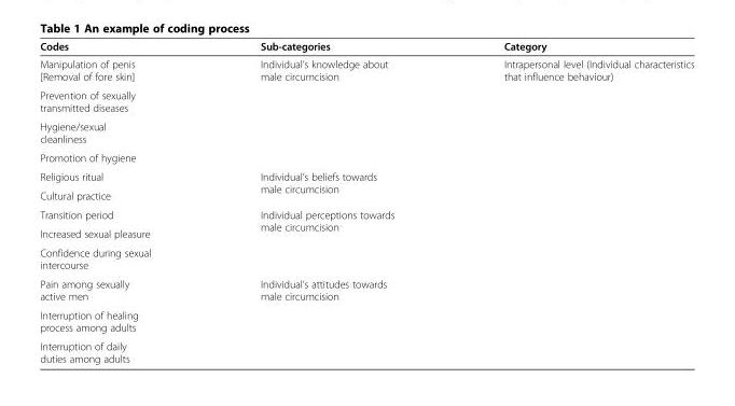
<table><thead><tr><td>Codes</td><td>Sub-categories</td><td>Category</td></tr></thead><tbody><tr><td>Manipulation of penis [Removal of fore skin]</td><td>Individual’s knowledge about male circumcision</td><td>Intrapersonal level (Individual characteristics that influence behaviour)</td></tr><tr><td colspan="3">Prevention of sexually transmitted diseases</td></tr><tr><td colspan="3">Hygiene/sexual cleanliness</td></tr><tr><td colspan="3">Promotion of hygiene</td></tr><tr><td>Religious ritual</td><td rowspan="2">Individual’s beliefs towards male circumcision</td><td rowspan="5"></td></tr><tr><td>Cultural practice</td></tr><tr><td>Transition period</td><td rowspan="3">Individual perceptions towards male circumcision</td></tr><tr><td>Increased sexual pleasure</td></tr><tr><td>Confidence during sexual intercourse</td></tr><tr><td>Pain among sexually active men</td><td>Individual’s attitudes towards male circumcision</td><td></td></tr><tr><td colspan="3">Interruption of healing process among adults</td></tr><tr><td>Interruption of daily duties among adults</td><td></td><td></td></tr></tbody></table>